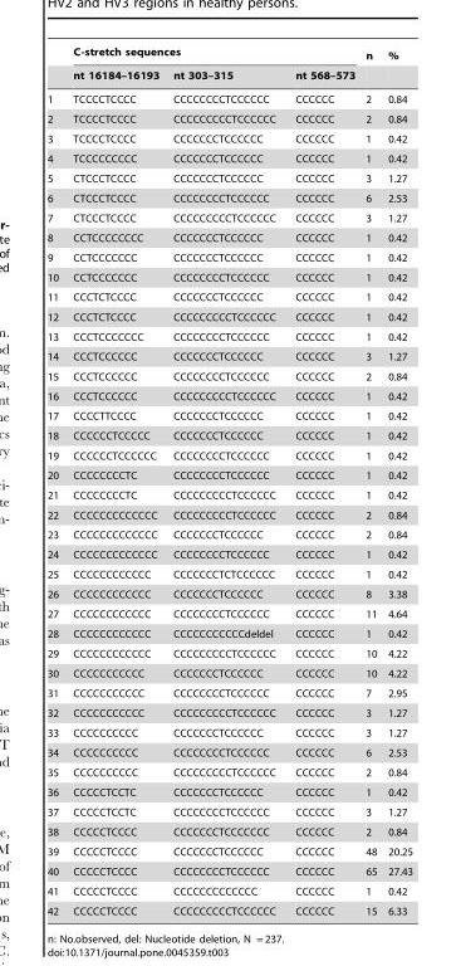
<table><thead><tr><td rowspan="2"></td><td colspan="3">C-stretch sequences</td><td rowspan="2">n</td><td rowspan="2">%</td></tr><tr><td>nt 16184–16193</td><td>nt 303–315</td><td>nt 568–573</td></tr></thead><tbody><tr><td>1</td><td>TCCCCTCCCC</td><td>CCCCCCCCTCCCCCC</td><td>CCCCCC</td><td>2</td><td>0.84</td></tr><tr><td>2</td><td>TCCCCTCCCC</td><td>CCCCCCCCCTCCCCCC</td><td>CCCCCC</td><td>2</td><td>0.84</td></tr><tr><td>3</td><td>TCCCCTCCCC</td><td>CCCCCCCTCCCCCC</td><td>CCCCCC</td><td>1</td><td>0.42</td></tr><tr><td>4</td><td>TCCCCCCCCC</td><td>CCCCCCCTCCCCCC</td><td>CCCCCC</td><td>1</td><td>0.42</td></tr><tr><td>5</td><td>CTCCCTCCCC</td><td>CCCCCCCTCCCCCC</td><td>CCCCCC</td><td>3</td><td>1.27</td></tr><tr><td>6</td><td>CTCCCTCCCC</td><td>CCCCCCCCTCCCCCC</td><td>CCCCCC</td><td>6</td><td>2.53</td></tr><tr><td>7</td><td>CTCCCTCCCC</td><td>CCCCCCCCCTCCCCCC</td><td>CCCCCC</td><td>3</td><td>1.27</td></tr><tr><td>8</td><td>CCTCCCCCCCC</td><td>CCCCCCCTCCCCCC</td><td>CCCCCC</td><td>1</td><td>0.42</td></tr><tr><td>9</td><td>CCTCCCCCCC</td><td>CCCCCCCTCCCCCC</td><td>CCCCCC</td><td>1</td><td>0.42</td></tr><tr><td>10</td><td>CCTCCCCCCC</td><td>CCCCCCCCTCCCCCC</td><td>CCCCCC</td><td>1</td><td>0.42</td></tr><tr><td>11</td><td>CCCTCTCCCC</td><td>CCCCCCCTCCCCCC</td><td>CCCCCC</td><td>1</td><td>0.42</td></tr><tr><td>12</td><td>CCCTCTCCCC</td><td>CCCCCCCCCTCCCCCC</td><td>CCCCCC</td><td>1</td><td>0.42</td></tr><tr><td>13</td><td>CCCTCCCCCCC</td><td>CCCCCCCCTCCCCCC</td><td>CCCCCC</td><td>1</td><td>0.42</td></tr><tr><td>14</td><td>CCCTCCCCCC</td><td>CCCCCCCTCCCCCC</td><td>CCCCCC</td><td>3</td><td>1.27</td></tr><tr><td>15</td><td>CCCTCCCCCC</td><td>CCCCCCCCTCCCCCC</td><td>CCCCCC</td><td>2</td><td>0.84</td></tr><tr><td>16</td><td>CCCTCCCCCC</td><td>CCCCCCCCCTCCCCCC</td><td>CCCCCC</td><td>1</td><td>0.42</td></tr><tr><td>17</td><td>CCCCTTCCCC</td><td>CCCCCCCTCCCCCC</td><td>CCCCCC</td><td>1</td><td>0.42</td></tr><tr><td>18</td><td>CCCCCCTCCCCC</td><td>CCCCCCCTCCCCCC</td><td>CCCCCC</td><td>1</td><td>0.42</td></tr><tr><td>19</td><td>CCCCCCTCCCCCC</td><td>CCCCCCCCTCCCCCC</td><td>CCCCCC</td><td>1</td><td>0.42</td></tr><tr><td>20</td><td>CCCCCCCCTC</td><td>CCCCCCCCTCCCCCC</td><td>CCCCCC</td><td>1</td><td>0.42</td></tr><tr><td>21</td><td>CCCCCCCCTC</td><td>CCCCCCCCCTCCCCCC</td><td>CCCCCC</td><td>1</td><td>0.42</td></tr><tr><td>22</td><td>CCCCCCCCCCCCC</td><td>CCCCCCCCCTCCCCCC</td><td>CCCCCC</td><td>2</td><td>0.84</td></tr><tr><td>23</td><td>CCCCCCCCCCCCC</td><td>CCCCCCCTCCCCCC</td><td>CCCCCC</td><td>2</td><td>0.84</td></tr><tr><td>24</td><td>CCCCCCCCCCCCC</td><td>CCCCCCCCTCCCCCC</td><td>CCCCCC</td><td>1</td><td>0.42</td></tr><tr><td>25</td><td>CCCCCCCCCCCC</td><td>CCCCCCCTCTCCCCCC</td><td>CCCCCC</td><td>1</td><td>0.42</td></tr><tr><td>26</td><td>CCCCCCCCCCCC</td><td>CCCCCCCTCCCCCC</td><td>CCCCCC</td><td>8</td><td>3.38</td></tr><tr><td>27</td><td>CCCCCCCCCCCC</td><td>CCCCCCCCTCCCCCC</td><td>CCCCCC</td><td>11</td><td>4.64</td></tr><tr><td>28</td><td>CCCCCCCCCCCC</td><td>CCCCCCCCCCCdeldel</td><td>CCCCCC</td><td>1</td><td>0.42</td></tr><tr><td>29</td><td>CCCCCCCCCCCC</td><td>CCCCCCCCCTCCCCCC</td><td>CCCCCC</td><td>10</td><td>4.22</td></tr><tr><td>30</td><td>CCCCCCCCCCC</td><td>CCCCCCCTCCCCCC</td><td>CCCCCC</td><td>10</td><td>4.22</td></tr><tr><td>31</td><td>CCCCCCCCCCC</td><td>CCCCCCCCTCCCCCC</td><td>CCCCCC</td><td>7</td><td>2.95</td></tr><tr><td>32</td><td>CCCCCCCCCCC</td><td>CCCCCCCCCTCCCCCC</td><td>CCCCCC</td><td>3</td><td>1.27</td></tr><tr><td>33</td><td>CCCCCCCCCC</td><td>CCCCCCCTCCCCCC</td><td>CCCCCC</td><td>3</td><td>1.27</td></tr><tr><td>34</td><td>CCCCCCCCCC</td><td>CCCCCCCCTCCCCCC</td><td>CCCCCC</td><td>6</td><td>2.53</td></tr><tr><td>35</td><td>CCCCCCCCCC</td><td>CCCCCCCCCTCCCCCC</td><td>CCCCCC</td><td>2</td><td>0.84</td></tr><tr><td>36</td><td>CCCCCTCCTC</td><td>CCCCCCCTCCCCCC</td><td>CCCCCC</td><td>1</td><td>0.42</td></tr><tr><td>37</td><td>CCCCCTCCTC</td><td>CCCCCCCCTCCCCCC</td><td>CCCCCC</td><td>3</td><td>1.27</td></tr><tr><td>38</td><td>CCCCCTCCCC</td><td>CCCCCCCTCCCCCCC</td><td>CCCCCC</td><td>2</td><td>0.84</td></tr><tr><td>39</td><td>CCCCCTCCCC</td><td>CCCCCCCTCCCCCC</td><td>CCCCCC</td><td>48</td><td>20.25</td></tr><tr><td>40</td><td>CCCCCTCCCC</td><td>CCCCCCCCTCCCCCC</td><td>CCCCCC</td><td>65</td><td>27.43</td></tr><tr><td>41</td><td>CCCCCTCCCC</td><td>CCCCCCCCCCCCC</td><td>CCCCCC</td><td>1</td><td>0.42</td></tr><tr><td>42</td><td>CCCCCTCCCC</td><td>CCCCCCCCCTCCCCCC</td><td>CCCCCC</td><td>15</td><td>6.33</td></tr></tbody></table>